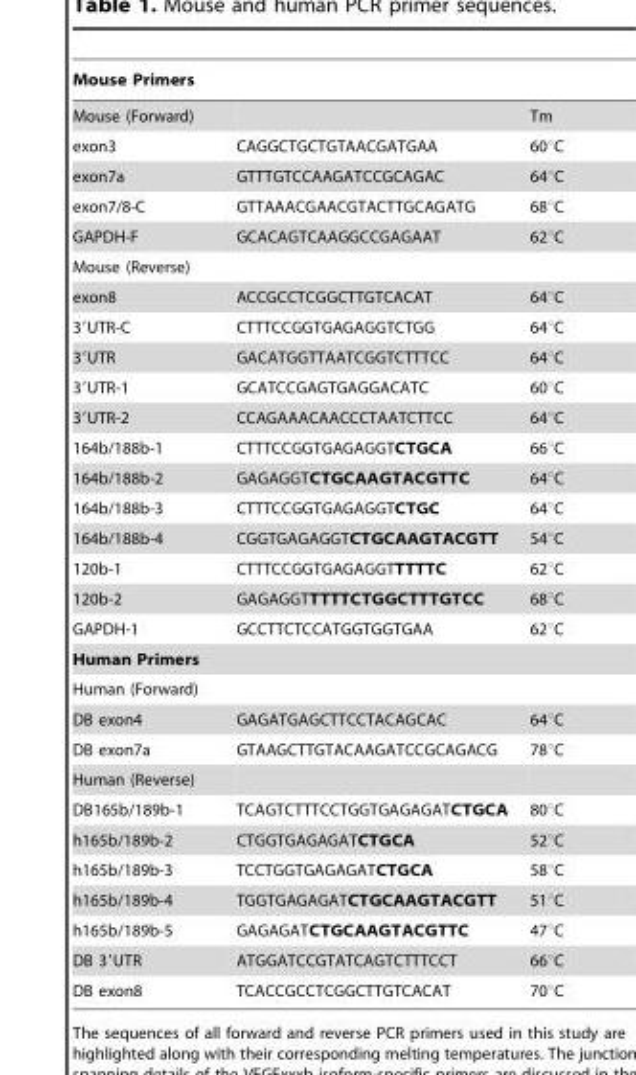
<table><thead><tr><td colspan="3">Mouse Primers</td></tr><tr><td>Mouse (Forward)</td><td></td><td>Tm</td></tr></thead><tbody><tr><td>exon3</td><td>CAGGCTGCTGTAACGATGAA</td><td>60°C</td></tr><tr><td>exon7a</td><td>GTTTGTCCAAGATCCGCAGAC</td><td>64°C</td></tr><tr><td>exon7/8-C</td><td>GTTAAACGAACGTACTTGCAGATG</td><td>68°C</td></tr><tr><td>GAPDH-F</td><td>GCACAGTCAAGGCCGAGAAT</td><td>62°C</td></tr><tr><td colspan="3">Mouse (Reverse)</td></tr><tr><td>exon8</td><td>ACCGCCTCGGCTTGTCACAT</td><td>64°C</td></tr><tr><td>3′UTR-C</td><td>CTTTCCGGTGAGAGGTCTGG</td><td>64°C</td></tr><tr><td>3′UTR</td><td>GACATGGTTAATCGGTCTTTCC</td><td>64°C</td></tr><tr><td>3′UTR-1</td><td>GCATCCGAGTGAGGACATC</td><td>60°C</td></tr><tr><td>3′UTR-2</td><td>CCAGAAACAACCCTAATCTTCC</td><td>64°C</td></tr><tr><td>164b/188b-1</td><td>CTTTCCGGTGAGAGGTCTGCA</td><td>66°C</td></tr><tr><td>164b/188b-2</td><td>GAGAGGTCTGCAAGTACGTTC</td><td>64°C</td></tr><tr><td>164b/188b-3</td><td>CTTTCCGGTGAGAGGTCTGC</td><td>64°C</td></tr><tr><td>164b/188b-4</td><td>CGGTGAGAGGTCTGCAAGTACGTT</td><td>54°C</td></tr><tr><td>120b-1</td><td>CTTTCCGGTGAGAGGTTTTTC</td><td>62°C</td></tr><tr><td>120b-2</td><td>GAGAGGTTTTTCTGGCTTTGTCC</td><td>68°C</td></tr><tr><td>GAPDH-1</td><td>GCCTTCTCCATGGTGGTGAA</td><td>62°C</td></tr><tr><td colspan="3">Human Primers</td></tr><tr><td colspan="3">Human (Forward)</td></tr><tr><td>DB exon4</td><td>GAGATGAGCTTCCTACAGCAC</td><td>64°C</td></tr><tr><td>DB exon7a</td><td>GTAAGCTTGTACAAGATCCGCAGACG</td><td>78°C</td></tr><tr><td colspan="3">Human (Reverse)</td></tr><tr><td>DB165b/189b-1</td><td>TCAGTCTTTCCTGGTGAGAGATCTGCA</td><td>80°C</td></tr><tr><td>h165b/189b-2</td><td>CTGGTGAGAGATCTGCA</td><td>52°C</td></tr><tr><td>h165b/189b-3</td><td>TCCTGGTGAGAGATCTGCA</td><td>58°C</td></tr><tr><td>h165b/189b-4</td><td>TGGTGAGAGATCTGCAAGTACGTT</td><td>51°C</td></tr><tr><td>h165b/189b-5</td><td>GAGAGATCTGCAAGTACGTTC</td><td>47°C</td></tr><tr><td>DB 3′UTR</td><td>ATGGATCCGTATCAGTCTTTCCT</td><td>66°C</td></tr><tr><td>DB exon8</td><td>TCACCGCCTCGGCTTGTCACAT</td><td>70°C</td></tr></tbody></table>